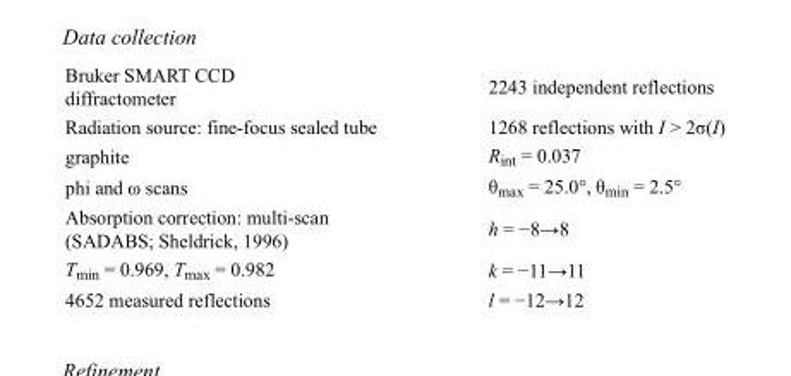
<table><tbody><tr><td>Bruker SMART CCD diffractometer</td><td>2243 independent reflections</td></tr><tr><td>Radiation source: fine-focus sealed tube</td><td>1268 reflections with I &gt; 2σ(I)</td></tr><tr><td>graphite</td><td>R<sub>int</sub> = 0.037</td></tr><tr><td>phi and ω scans</td><td>θ<sub>max</sub> = 25.0°, θ<sub>min</sub> = 2.5°</td></tr><tr><td>Absorption correction: multi-scan (SADABS; Sheldrick, 1996)</td><td>h = −8→8</td></tr><tr><td>T<sub>min</sub> = 0.969, T<sub>max</sub> = 0.982</td><td>k = −11→11</td></tr><tr><td>4652 measured reflections</td><td>l = −12→12</td></tr></tbody></table>